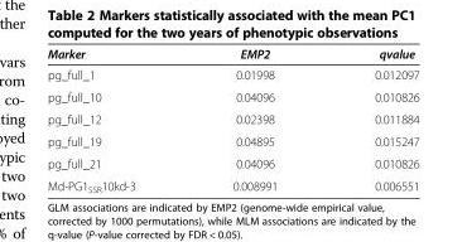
<table><thead><tr><td>Marker</td><td>EMP2</td><td>qvalue</td></tr></thead><tbody><tr><td>pg_full_1</td><td>0.01998</td><td>0.012097</td></tr><tr><td>pg_full_10</td><td>0.04096</td><td>0.010826</td></tr><tr><td>pg_full_12</td><td>0.02398</td><td>0.011884</td></tr><tr><td>pg_full_19</td><td>0.04895</td><td>0.015247</td></tr><tr><td>pg_full_21</td><td>0.04096</td><td>0.010826</td></tr><tr><td>Md-PG1<sub>SSR</sub>10kd-3</td><td>0.008991</td><td>0.006551</td></tr></tbody></table>